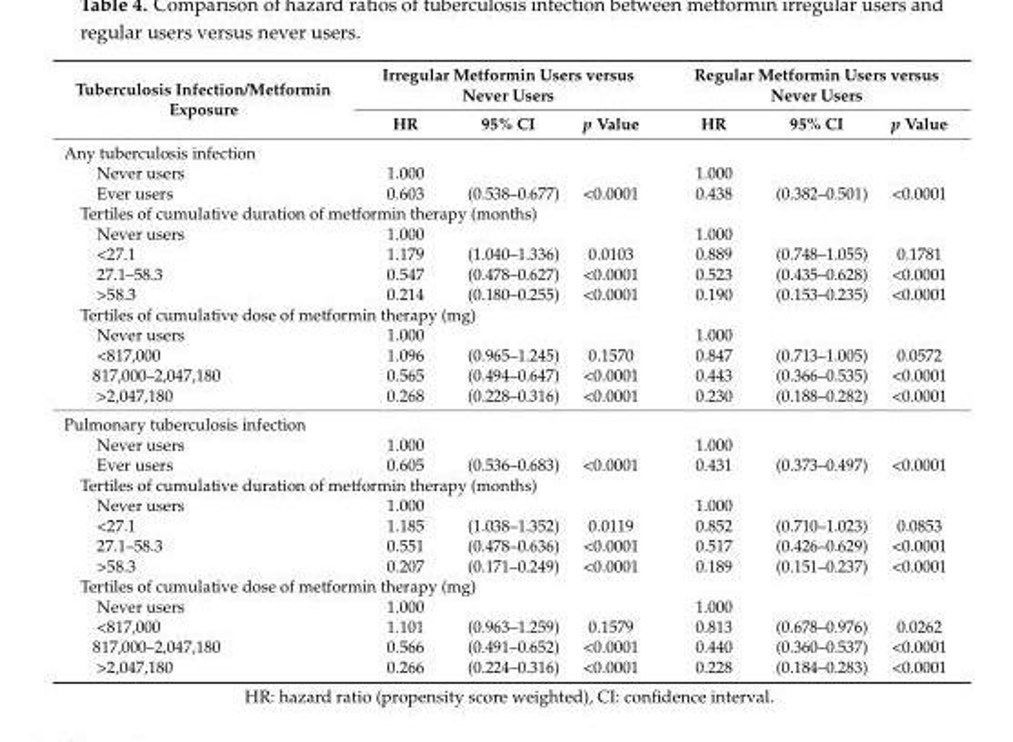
<table><thead><tr><td rowspan="2">Tuberculosis Infection/Metformin Exposure</td><td colspan="3">Irregular Metformin Users versus Never Users</td><td colspan="3">Regular Metformin Users versus Never Users</td></tr><tr><td>HR</td><td>95% CI</td><td>p Value</td><td>HR</td><td>95% CI</td><td>p Value</td></tr></thead><tbody><tr><td colspan="7">Any tuberculosis infection</td></tr><tr><td>Never users</td><td>1.000</td><td></td><td></td><td>1.000</td><td></td><td></td></tr><tr><td>Ever users</td><td>0.603</td><td>(0.538–0.677)</td><td>&lt;0.0001</td><td>0.438</td><td>(0.382–0.501)</td><td>&lt;0.0001</td></tr><tr><td colspan="7">Tertiles of cumulative duration of metformin therapy (months)</td></tr><tr><td>Never users</td><td>1.000</td><td></td><td></td><td>1.000</td><td></td><td></td></tr><tr><td>&lt;27.1</td><td>1.179</td><td>(1.040–1.336)</td><td>0.0103</td><td>0.889</td><td>(0.748–1.055)</td><td>0.1781</td></tr><tr><td>27.1–58.3</td><td>0.547</td><td>(0.478–0.627)</td><td>&lt;0.0001</td><td>0.523</td><td>(0.435–0.628)</td><td>&lt;0.0001</td></tr><tr><td>&gt;58.3</td><td>0.214</td><td>(0.180–0.255)</td><td>&lt;0.0001</td><td>0.190</td><td>(0.153–0.235)</td><td>&lt;0.0001</td></tr><tr><td colspan="7">Tertiles of cumulative dose of metformin therapy (mg)</td></tr><tr><td>Never users</td><td>1.000</td><td></td><td></td><td>1.000</td><td></td><td></td></tr><tr><td>&lt;817,000</td><td>1.096</td><td>(0.965–1.245)</td><td>0.1570</td><td>0.847</td><td>(0.713–1.005)</td><td>0.0572</td></tr><tr><td>817,000–2,047,180</td><td>0.565</td><td>(0.494–0.647)</td><td>&lt;0.0001</td><td>0.443</td><td>(0.366–0.535)</td><td>&lt;0.0001</td></tr><tr><td>&gt;2,047,180</td><td>0.268</td><td>(0.228–0.316)</td><td>&lt;0.0001</td><td>0.230</td><td>(0.188–0.282)</td><td>&lt;0.0001</td></tr><tr><td colspan="7">Pulmonary tuberculosis infection</td></tr><tr><td>Never users</td><td>1.000</td><td></td><td></td><td>1.000</td><td></td><td></td></tr><tr><td>Ever users</td><td>0.605</td><td>(0.536–0.683)</td><td>&lt;0.0001</td><td>0.431</td><td>(0.373–0.497)</td><td>&lt;0.0001</td></tr><tr><td colspan="7">Tertiles of cumulative duration of metformin therapy (months)</td></tr><tr><td>Never users</td><td>1.000</td><td></td><td></td><td>1.000</td><td></td><td></td></tr><tr><td>&lt;27.1</td><td>1.185</td><td>(1.038–1.352)</td><td>0.0119</td><td>0.852</td><td>(0.710–1.023)</td><td>0.0853</td></tr><tr><td>27.1–58.3</td><td>0.551</td><td>(0.478–0.636)</td><td>&lt;0.0001</td><td>0.517</td><td>(0.426–0.629)</td><td>&lt;0.0001</td></tr><tr><td>&gt;58.3</td><td>0.207</td><td>(0.171–0.249)</td><td>&lt;0.0001</td><td>0.189</td><td>(0.151–0.237)</td><td>&lt;0.0001</td></tr><tr><td colspan="7">Tertiles of cumulative dose of metformin therapy (mg)</td></tr><tr><td>Never users</td><td>1.000</td><td></td><td></td><td>1.000</td><td></td><td></td></tr><tr><td>&lt;817,000</td><td>1.101</td><td>(0.963–1.259)</td><td>0.1579</td><td>0.813</td><td>(0.678–0.976)</td><td>0.0262</td></tr><tr><td>817,000–2,047,180</td><td>0.566</td><td>(0.491–0.652)</td><td>&lt;0.0001</td><td>0.440</td><td>(0.360–0.537)</td><td>&lt;0.0001</td></tr><tr><td>&gt;2,047,180</td><td>0.266</td><td>(0.224–0.316)</td><td>&lt;0.0001</td><td>0.228</td><td>(0.184–0.283)</td><td>&lt;0.0001</td></tr></tbody></table>